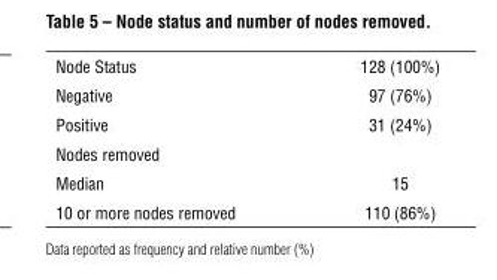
<table><thead><tr><td>Node Status</td><td>128 (100%)</td></tr></thead><tbody><tr><td>Negative</td><td>97 (76%)</td></tr><tr><td>Positive</td><td>31 (24%)</td></tr><tr><td colspan="2">Nodes removed</td></tr><tr><td>Median</td><td>15</td></tr><tr><td>10 or more nodes removed</td><td>110 (86%)</td></tr></tbody></table>